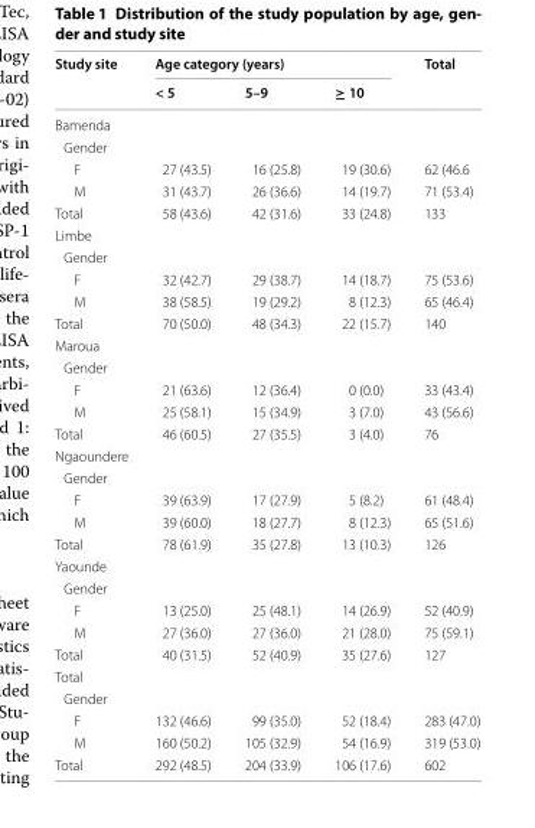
<table><thead><tr><td rowspan="2">Study site</td><td colspan="3">Age category (years)</td><td rowspan="2">Total</td></tr><tr><td>&lt; 5</td><td>5–9</td><td>≥ 10</td></tr></thead><tbody><tr><td colspan="5">Bamenda</td></tr><tr><td colspan="5">Gender</td></tr><tr><td>F</td><td>27 (43.5)</td><td>16 (25.8)</td><td>19 (30.6)</td><td>62 (46.6</td></tr><tr><td>M</td><td>31 (43.7)</td><td>26 (36.6)</td><td>14 (19.7)</td><td>71 (53.4)</td></tr><tr><td>Total</td><td>58 (43.6)</td><td>42 (31.6)</td><td>33 (24.8)</td><td>133</td></tr><tr><td colspan="5">Limbe</td></tr><tr><td colspan="5">Gender</td></tr><tr><td>F</td><td>32 (42.7)</td><td>29 (38.7)</td><td>14 (18.7)</td><td>75 (53.6)</td></tr><tr><td>M</td><td>38 (58.5)</td><td>19 (29.2)</td><td>8 (12.3)</td><td>65 (46.4)</td></tr><tr><td>Total</td><td>70 (50.0)</td><td>48 (34.3)</td><td>22 (15.7)</td><td>140</td></tr><tr><td colspan="5">Maroua</td></tr><tr><td colspan="5">Gender</td></tr><tr><td>F</td><td>21 (63.6)</td><td>12 (36.4)</td><td>0 (0.0)</td><td>33 (43.4)</td></tr><tr><td>M</td><td>25 (58.1)</td><td>15 (34.9)</td><td>3 (7.0)</td><td>43 (56.6)</td></tr><tr><td>Total</td><td>46 (60.5)</td><td>27 (35.5)</td><td>3 (4.0)</td><td>76</td></tr><tr><td colspan="5">Ngaoundere</td></tr><tr><td colspan="5">Gender</td></tr><tr><td>F</td><td>39 (63.9)</td><td>17 (27.9)</td><td>5 (8.2)</td><td>61 (48.4)</td></tr><tr><td>M</td><td>39 (60.0)</td><td>18 (27.7)</td><td>8 (12.3)</td><td>65 (51.6)</td></tr><tr><td>Total</td><td>78 (61.9)</td><td>35 (27.8)</td><td>13 (10.3)</td><td>126</td></tr><tr><td colspan="5">Yaounde</td></tr><tr><td colspan="5">Gender</td></tr><tr><td>F</td><td>13 (25.0)</td><td>25 (48.1)</td><td>14 (26.9)</td><td>52 (40.9)</td></tr><tr><td>M</td><td>27 (36.0)</td><td>27 (36.0)</td><td>21 (28.0)</td><td>75 (59.1)</td></tr><tr><td>Total</td><td>40 (31.5)</td><td>52 (40.9)</td><td>35 (27.6)</td><td>127</td></tr><tr><td colspan="5">Total</td></tr><tr><td colspan="5">Gender</td></tr><tr><td>F</td><td>132 (46.6)</td><td>99 (35.0)</td><td>52 (18.4)</td><td>283 (47.0)</td></tr><tr><td>M</td><td>160 (50.2)</td><td>105 (32.9)</td><td>54 (16.9)</td><td>319 (53.0)</td></tr><tr><td>Total</td><td>292 (48.5)</td><td>204 (33.9)</td><td>106 (17.6)</td><td>602</td></tr></tbody></table>